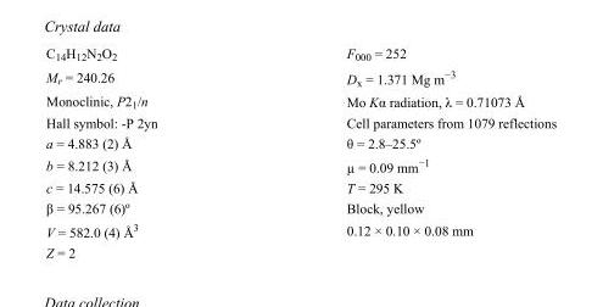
<table><tbody><tr><td>C<sub>14</sub>H<sub>12</sub>N<sub>2</sub>O<sub>2</sub></td><td>F000 = 252</td></tr><tr><td>M<sub>r</sub> = 240.26</td><td>D<sub>x</sub> = 1.371 Mg m<sup>−3</sup></td></tr><tr><td>Monoclinic, P2<sub>1</sub>/n</td><td>Mo Kα radiation, λ = 0.71073 Å</td></tr><tr><td>Hall symbol: -P 2yn</td><td>Cell parameters from 1079 reflections</td></tr><tr><td>a = 4.883 (2) Å</td><td>θ = 2.8–25.5º</td></tr><tr><td>b = 8.212 (3) Å</td><td>µ = 0.09 mm<sup>−1</sup></td></tr><tr><td>c = 14.575 (6) Å</td><td>T = 295 K</td></tr><tr><td>β = 95.267 (6)º</td><td>Block, yellow</td></tr><tr><td>V = 582.0 (4) Å<sup>3</sup></td><td>0.12 × 0.10 × 0.08 mm</td></tr><tr><td>Z = 2</td><td></td></tr></tbody></table>